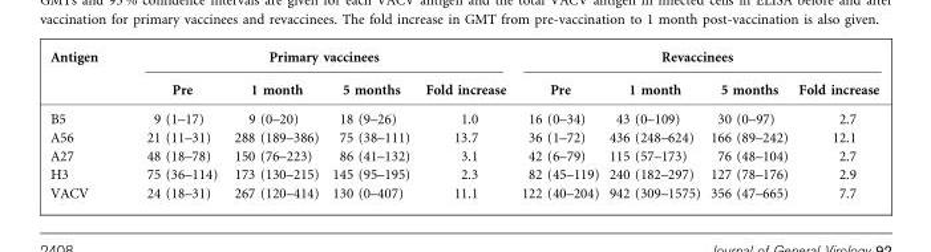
<table><thead><tr><td rowspan="2">Antigen</td><td colspan="4">Primary vaccinees</td><td colspan="4">Revaccinees</td></tr><tr><td>Pre</td><td>1 month</td><td>5 months</td><td>Fold increase</td><td>Pre</td><td>1 month</td><td>5 months</td><td>Fold increase</td></tr></thead><tbody><tr><td>B5</td><td>9 (1–17)</td><td>9 (0–20)</td><td>18 (9–26)</td><td>1.0</td><td>16 (0–34)</td><td>43 (0–109)</td><td>30 (0–97)</td><td>2.7</td></tr><tr><td>A56</td><td>21 (11–31)</td><td>288 (189–386)</td><td>75 (38–111)</td><td>13.7</td><td>36 (1–72)</td><td>436 (248–624)</td><td>166 (89–242)</td><td>12.1</td></tr><tr><td>A27</td><td>48 (18–78)</td><td>150 (76–223)</td><td>86 (41–132)</td><td>3.1</td><td>42 (6–79)</td><td>115 (57–173)</td><td>76 (48–104)</td><td>2.7</td></tr><tr><td>H3</td><td>75 (36–114)</td><td>173 (130–215)</td><td>145 (95–195)</td><td>2.3</td><td>82 (45–119)</td><td>240 (182–297)</td><td>127 (78–176)</td><td>2.9</td></tr><tr><td>VACV</td><td>24 (18–31)</td><td>267 (120–414)</td><td>130 (0–407)</td><td>11.1</td><td>122 (40–204)</td><td>942 (309–1575)</td><td>356 (47–665)</td><td>7.7</td></tr></tbody></table>